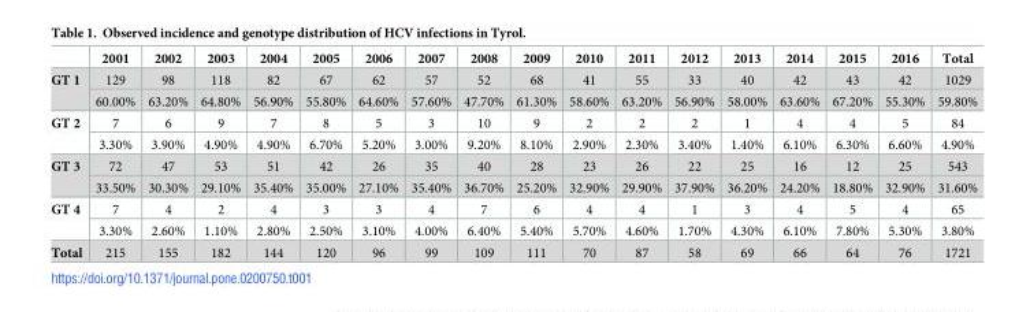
<table><thead><tr><td></td><td>2001</td><td>2002</td><td>2003</td><td>2004</td><td>2005</td><td>2006</td><td>2007</td><td>2008</td><td>2009</td><td>2010</td><td>2011</td><td>2012</td><td>2013</td><td>2014</td><td>2015</td><td>2016</td><td>Total</td></tr></thead><tbody><tr><td rowspan="2">GT 1</td><td>129</td><td>98</td><td>118</td><td>82</td><td>67</td><td>62</td><td>57</td><td>52</td><td>68</td><td>41</td><td>55</td><td>33</td><td>40</td><td>42</td><td>43</td><td>42</td><td>1029</td></tr><tr><td>60.00%</td><td>63.20%</td><td>64.80%</td><td>56.90%</td><td>55.80%</td><td>64.60%</td><td>57.60%</td><td>47.70%</td><td>61.30%</td><td>58.60%</td><td>63.20%</td><td>56.90%</td><td>58.00%</td><td>63.60%</td><td>67.20%</td><td>55.30%</td><td>59.80%</td></tr><tr><td rowspan="2">GT 2</td><td>7</td><td>6</td><td>9</td><td>7</td><td>8</td><td>5</td><td>3</td><td>10</td><td>9</td><td>2</td><td>2</td><td>2</td><td>1</td><td>4</td><td>4</td><td>5</td><td>84</td></tr><tr><td>3.30%</td><td>3.90%</td><td>4.90%</td><td>4.90%</td><td>6.70%</td><td>5.20%</td><td>3.00%</td><td>9.20%</td><td>8.10%</td><td>2.90%</td><td>2.30%</td><td>3.40%</td><td>1.40%</td><td>6.10%</td><td>6.30%</td><td>6.60%</td><td>4.90%</td></tr><tr><td rowspan="2">GT 3</td><td>72</td><td>47</td><td>53</td><td>51</td><td>42</td><td>26</td><td>35</td><td>40</td><td>28</td><td>23</td><td>26</td><td>22</td><td>25</td><td>16</td><td>12</td><td>25</td><td>543</td></tr><tr><td>33.50%</td><td>30.30%</td><td>29.10%</td><td>35.40%</td><td>35.00%</td><td>27.10%</td><td>35.40%</td><td>36.70%</td><td>25.20%</td><td>32.90%</td><td>29.90%</td><td>37.90%</td><td>36.20%</td><td>24.20%</td><td>18.80%</td><td>32.90%</td><td>31.60%</td></tr><tr><td rowspan="2">GT 4</td><td>7</td><td>4</td><td>2</td><td>4</td><td>3</td><td>3</td><td>4</td><td>7</td><td>6</td><td>4</td><td>4</td><td>1</td><td>3</td><td>4</td><td>5</td><td>4</td><td>65</td></tr><tr><td>3.30%</td><td>2.60%</td><td>1.10%</td><td>2.80%</td><td>2.50%</td><td>3.10%</td><td>4.00%</td><td>6.40%</td><td>5.40%</td><td>5.70%</td><td>4.60%</td><td>1.70%</td><td>4.30%</td><td>6.10%</td><td>7.80%</td><td>5.30%</td><td>3.80%</td></tr><tr><td>Total</td><td>215</td><td>155</td><td>182</td><td>144</td><td>120</td><td>96</td><td>99</td><td>109</td><td>111</td><td>70</td><td>87</td><td>58</td><td>69</td><td>66</td><td>64</td><td>76</td><td>1721</td></tr></tbody></table>